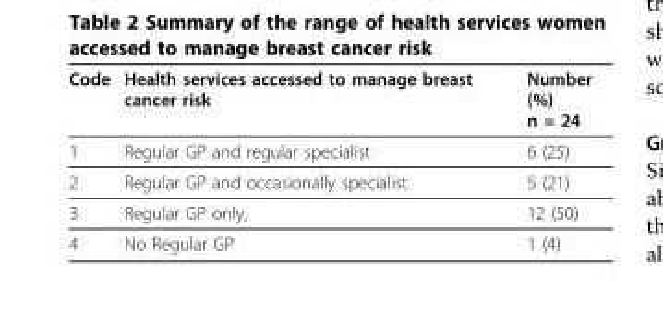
<table><thead><tr><td>Code</td><td>Health services accessed to manage breast cancer risk</td><td>Number (%) n = 24</td></tr></thead><tbody><tr><td>1</td><td>Regular GP and regular specialist</td><td>6 (25)</td></tr><tr><td>2</td><td>Regular GP and occasionally specialist</td><td>5 (21)</td></tr><tr><td>3</td><td>Regular GP only,</td><td>12 (50)</td></tr><tr><td>4</td><td>No Regular GP</td><td>1 (4)</td></tr></tbody></table>